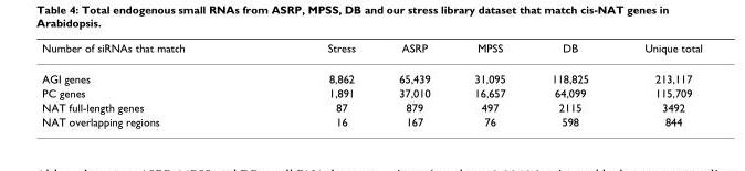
<table><thead><tr><td>Number of siRNAs that match</td><td>Stress</td><td>ASRP</td><td>MPSS</td><td>DB</td><td>Unique total</td></tr></thead><tbody><tr><td>AGI genes</td><td>8,862</td><td>65,439</td><td>31,095</td><td>118,825</td><td>213,117</td></tr><tr><td>PC genes</td><td>1,891</td><td>37,010</td><td>16,657</td><td>64,099</td><td>115,709</td></tr><tr><td>NAT full-length genes</td><td>87</td><td>879</td><td>497</td><td>2115</td><td>3492</td></tr><tr><td>NAT overlapping regions</td><td>16</td><td>167</td><td>76</td><td>598</td><td>844</td></tr></tbody></table>